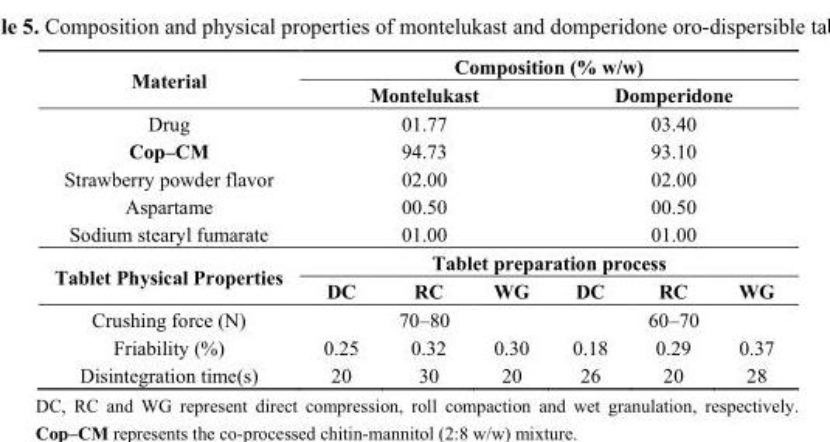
<table><tbody><tr><td rowspan="2">Material</td><td colspan="6">Composition (% w/w)</td></tr><tr><td colspan="3">Montelukast</td><td colspan="3">Domperidone</td></tr><tr><td>Drug</td><td colspan="3">01.77</td><td colspan="3">03.40</td></tr><tr><td>Cop–CM</td><td colspan="3">94.73</td><td colspan="3">93.10</td></tr><tr><td>Strawberry powder flavor</td><td colspan="3">02.00</td><td colspan="3">02.00</td></tr><tr><td>Aspartame</td><td colspan="3">00.50</td><td colspan="3">00.50</td></tr><tr><td>Sodium stearyl fumarate</td><td colspan="3">01.00</td><td colspan="3">01.00</td></tr><tr><td rowspan="2">Tablet Physical Properties</td><td colspan="6">Tablet preparation process</td></tr><tr><td>DC</td><td>RC</td><td>WG</td><td>DC</td><td>RC</td><td>WG</td></tr><tr><td>Crushing force (N)</td><td colspan="3">70–80</td><td colspan="3">60–70</td></tr><tr><td>Friability (%)</td><td>0.25</td><td>0.32</td><td>0.30</td><td>0.18</td><td>0.29</td><td>0.37</td></tr><tr><td>Disintegration time(s)</td><td>20</td><td>30</td><td>20</td><td>26</td><td>20</td><td>28</td></tr></tbody></table>